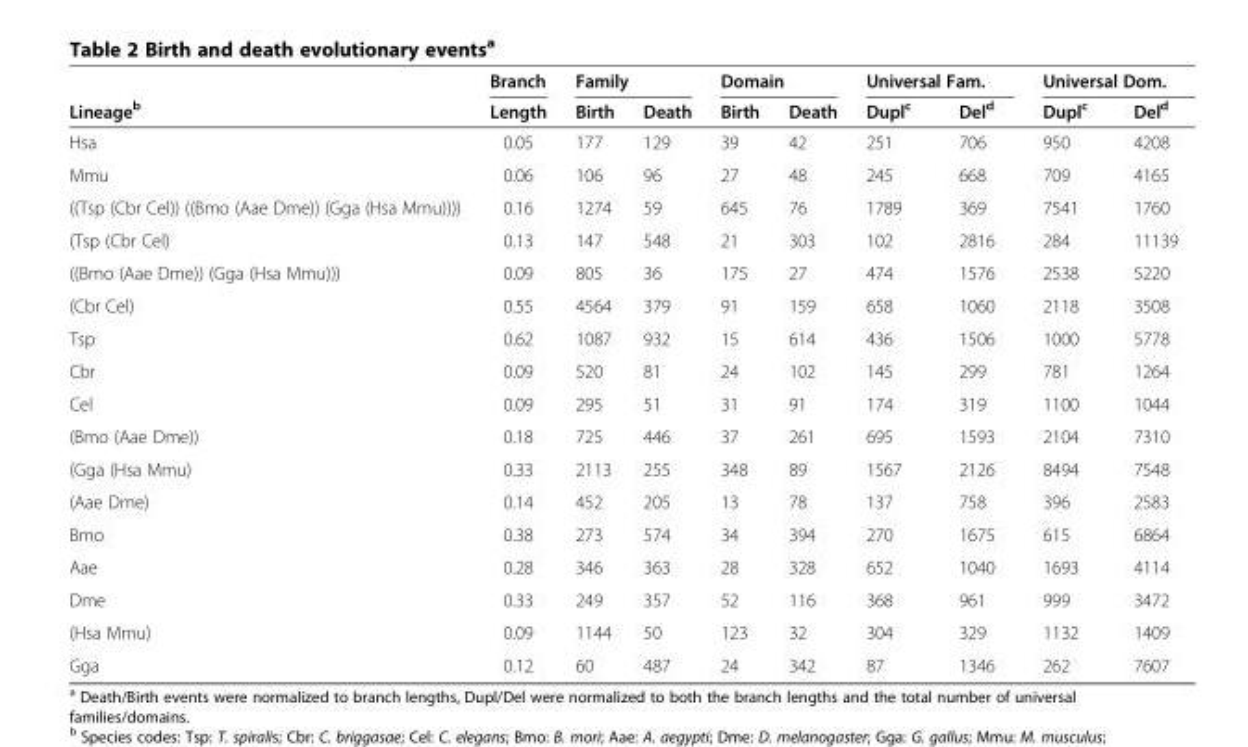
<table><thead><tr><td rowspan="2">Lineage<sup>b</sup></td><td rowspan="2">Branch Length</td><td colspan="2">Family</td><td colspan="2">Domain</td><td colspan="2">Universal Fam.</td><td colspan="2">Universal Dom.</td></tr><tr><td>Birth</td><td>Death</td><td>Birth</td><td>Death</td><td>Dupl<sup>c</sup></td><td>Del<sup>d</sup></td><td>Dupl<sup>c</sup></td><td>Del<sup>d</sup></td></tr></thead><tbody><tr><td>Hsa</td><td>0.05</td><td>177</td><td>129</td><td>39</td><td>42</td><td>251</td><td>706</td><td>950</td><td>4208</td></tr><tr><td>Mmu</td><td>0.06</td><td>106</td><td>96</td><td>27</td><td>48</td><td>245</td><td>668</td><td>709</td><td>4165</td></tr><tr><td>((Tsp (Cbr Cel)) ((Bmo (Aae Dme)) (Gga (Hsa Mmu))))</td><td>0.16</td><td>1274</td><td>59</td><td>645</td><td>76</td><td>1789</td><td>369</td><td>7541</td><td>1760</td></tr><tr><td>(Tsp (Cbr Cel)</td><td>0.13</td><td>147</td><td>548</td><td>21</td><td>303</td><td>102</td><td>2816</td><td>284</td><td>11139</td></tr><tr><td>((Bmo (Aae Dme)) (Gga (Hsa Mmu)))</td><td>0.09</td><td>805</td><td>36</td><td>175</td><td>27</td><td>474</td><td>1576</td><td>2538</td><td>5220</td></tr><tr><td>(Cbr Cel)</td><td>0.55</td><td>4564</td><td>379</td><td>91</td><td>159</td><td>658</td><td>1060</td><td>2118</td><td>3508</td></tr><tr><td>Tsp</td><td>0.62</td><td>1087</td><td>932</td><td>15</td><td>614</td><td>436</td><td>1506</td><td>1000</td><td>5778</td></tr><tr><td>Cbr</td><td>0.09</td><td>520</td><td>81</td><td>24</td><td>102</td><td>145</td><td>299</td><td>781</td><td>1264</td></tr><tr><td>Cel</td><td>0.09</td><td>295</td><td>51</td><td>31</td><td>91</td><td>174</td><td>319</td><td>1100</td><td>1044</td></tr><tr><td>(Bmo (Aae Dme))</td><td>0.18</td><td>725</td><td>446</td><td>37</td><td>261</td><td>695</td><td>1593</td><td>2104</td><td>7310</td></tr><tr><td>(Gga (Hsa Mmu)</td><td>0.33</td><td>2113</td><td>255</td><td>348</td><td>89</td><td>1567</td><td>2126</td><td>8494</td><td>7548</td></tr><tr><td>(Aae Dme)</td><td>0.14</td><td>452</td><td>205</td><td>13</td><td>78</td><td>137</td><td>758</td><td>396</td><td>2583</td></tr><tr><td>Bmo</td><td>0.38</td><td>273</td><td>574</td><td>34</td><td>394</td><td>270</td><td>1675</td><td>615</td><td>6864</td></tr><tr><td>Aae</td><td>0.28</td><td>346</td><td>363</td><td>28</td><td>328</td><td>652</td><td>1040</td><td>1693</td><td>4114</td></tr><tr><td>Dme</td><td>0.33</td><td>249</td><td>357</td><td>52</td><td>116</td><td>368</td><td>961</td><td>999</td><td>3472</td></tr><tr><td>(Hsa Mmu)</td><td>0.09</td><td>1144</td><td>50</td><td>123</td><td>32</td><td>304</td><td>329</td><td>1132</td><td>1409</td></tr><tr><td>Gga</td><td>0.12</td><td>60</td><td>487</td><td>24</td><td>342</td><td>87</td><td>1346</td><td>262</td><td>7607</td></tr></tbody></table>